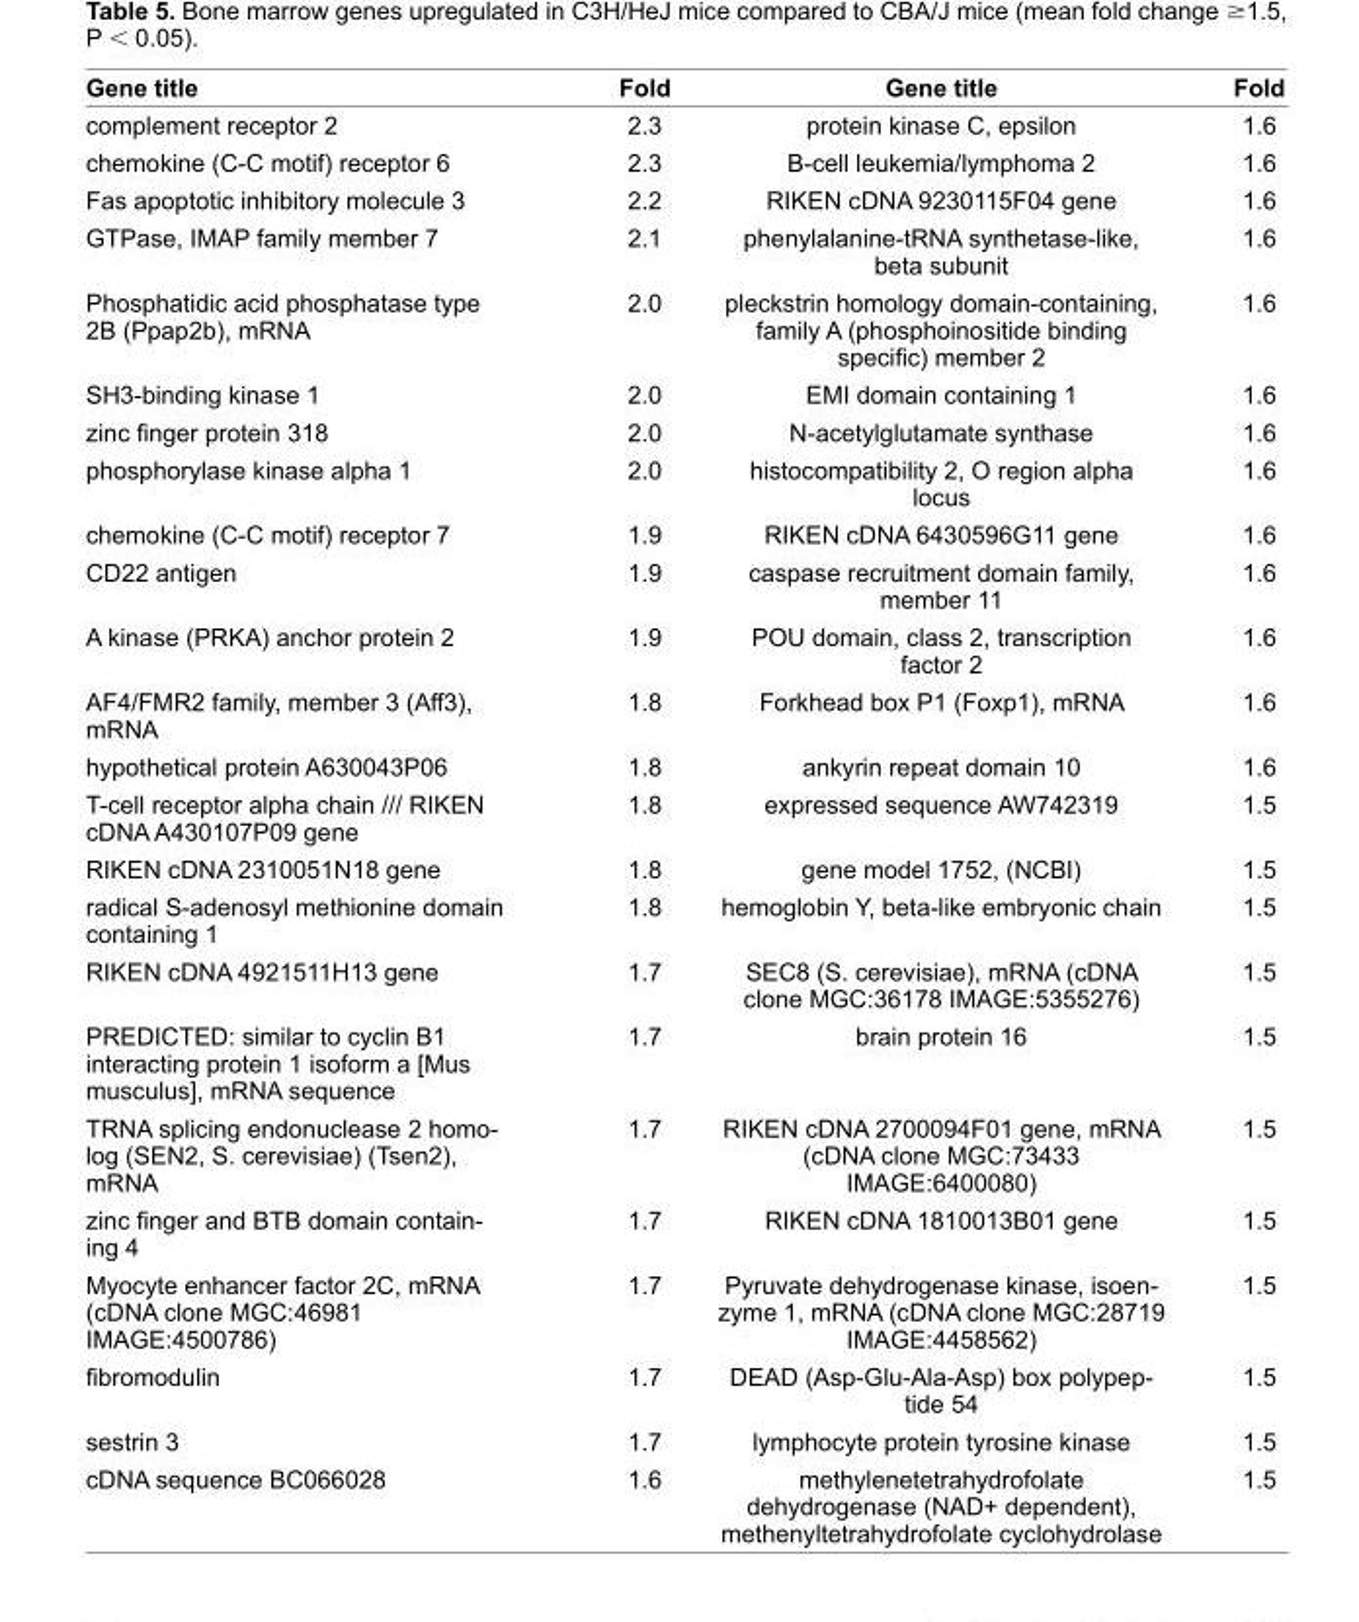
<table><thead><tr><td>Gene title</td><td>Fold</td><td>Gene title</td><td>Fold</td></tr></thead><tbody><tr><td>complement receptor 2</td><td>2.3</td><td>protein kinase C, epsilon</td><td>1.6</td></tr><tr><td>chemokine (C-C motif) receptor 6</td><td>2.3</td><td>B-cell leukemia/lymphoma 2</td><td>1.6</td></tr><tr><td>Fas apoptotic inhibitory molecule 3</td><td>2.2</td><td>RIKEN cDNA 9230115F04 gene</td><td>1.6</td></tr><tr><td>GTPase, IMAP family member 7</td><td>2.1</td><td>phenylalanine-tRNA synthetase-like, beta subunit</td><td>1.6</td></tr><tr><td>Phosphatidic acid phosphatase type 2B (Ppap2b), mRNA</td><td>2.0</td><td>pleckstrin homology domain-containing, family A (phosphoinositide binding specifi c) member 2</td><td>1.6</td></tr><tr><td>SH3-binding kinase 1</td><td>2.0</td><td>EMI domain containing 1</td><td>1.6</td></tr><tr><td>zinc fi nger protein 318</td><td>2.0</td><td>N-acetylglutamate synthase</td><td>1.6</td></tr><tr><td>phosphorylase kinase alpha 1</td><td>2.0</td><td>histocompatibility 2, O region alpha locus</td><td>1.6</td></tr><tr><td>chemokine (C-C motif) receptor 7</td><td>1.9</td><td>RIKEN cDNA 6430596G11 gene</td><td>1.6</td></tr><tr><td>CD22 antigen</td><td>1.9</td><td>caspase recruitment domain family, member 11</td><td>1.6</td></tr><tr><td>A kinase (PRKA) anchor protein 2</td><td>1.9</td><td>POU domain, class 2, transcription factor 2</td><td>1.6</td></tr><tr><td>AF4/FMR2 family, member 3 (Aff3), mRNA</td><td>1.8</td><td>Forkhead box P1 (Foxp1), mRNA</td><td>1.6</td></tr><tr><td>hypothetical protein A630043P06</td><td>1.8</td><td>ankyrin repeat domain 10</td><td>1.6</td></tr><tr><td>T-cell receptor alpha chain /// RIKEN cDNA A430107P09 gene</td><td>1.8</td><td>expressed sequence AW742319</td><td>1.5</td></tr><tr><td>RIKEN cDNA 2310051N18 gene</td><td>1.8</td><td>gene model 1752, (NCBI)</td><td>1.5</td></tr><tr><td>radical S-adenosyl methionine domain containing 1</td><td>1.8</td><td>hemoglobin Y, beta-like embryonic chain</td><td>1.5</td></tr><tr><td>RIKEN cDNA 4921511H13 gene</td><td>1.7</td><td>SEC8 (S. cerevisiae), mRNA (cDNA clone MGC:36178 IMAGE:5355276)</td><td>1.5</td></tr><tr><td>PREDICTED: similar to cyclin B1 interacting protein 1 isoform a [Mus musculus], mRNA sequence</td><td>1.7</td><td>brain protein 16</td><td>1.5</td></tr><tr><td>TRNA splicing endonuclease 2 homo- log (SEN2, S. cerevisiae) (Tsen2), mRNA</td><td>1.7</td><td>RIKEN cDNA 2700094F01 gene, mRNA (cDNA clone MGC:73433 IMAGE:6400080)</td><td>1.5</td></tr><tr><td>zinc fi nger and BTB domain contain- ing 4</td><td>1.7</td><td>RIKEN cDNA 1810013B01 gene</td><td>1.5</td></tr><tr><td>Myocyte enhancer factor 2C, mRNA (cDNA clone MGC:46981 IMAGE:4500786)</td><td>1.7</td><td>Pyruvate dehydrogenase kinase, isoen- zyme 1, mRNA (cDNA clone MGC:28719 IMAGE:4458562)</td><td>1.5</td></tr><tr><td>fi bromodulin</td><td>1.7</td><td>DEAD (Asp-Glu-Ala-Asp) box polypep- tide 54</td><td>1.5</td></tr><tr><td>sestrin 3</td><td>1.7</td><td>lymphocyte protein tyrosine kinase</td><td>1.5</td></tr><tr><td>cDNA sequence BC066028</td><td>1.6</td><td>methylenetetrahydrofolate dehydrogenase (NAD+ dependent), methenyltetrahydrofolate cyclohydrolase</td><td>1.5</td></tr></tbody></table>